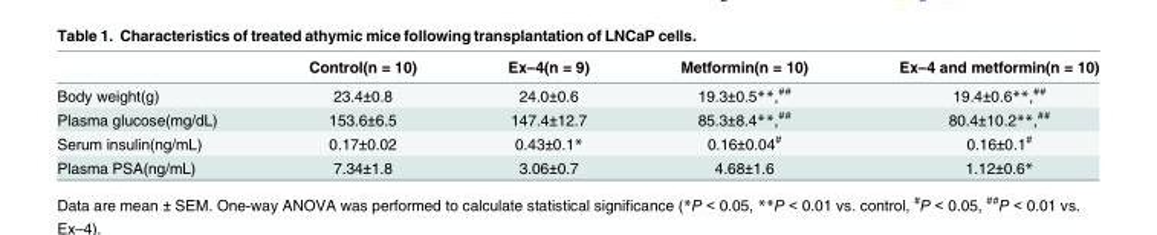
<table><thead><tr><td></td><td>Control(n = 10)</td><td>Ex–4(n = 9)</td><td>Metformin(n = 10)</td><td>Ex–4 and metformin(n = 10)</td></tr></thead><tbody><tr><td>Body weight(g)</td><td>23.4±0.8</td><td>24.0±0.6</td><td>19.3±0.5**,<sup>##</sup></td><td>19.4±0.6**,<sup>##</sup></td></tr><tr><td>Plasma glucose(mg/dL)</td><td>153.6±6.5</td><td>147.4±12.7</td><td>85.3±8.4**,<sup>##</sup></td><td>80.4±10.2**,<sup>##</sup></td></tr><tr><td>Serum insulin(ng/mL)</td><td>0.17±0.02</td><td>0.43±0.1*</td><td>0.16±0.04<sup>#</sup></td><td>0.16±0.1<sup>#</sup></td></tr><tr><td>Plasma PSA(ng/mL)</td><td>7.34±1.8</td><td>3.06±0.7</td><td>4.68±1.6</td><td>1.12±0.6*</td></tr></tbody></table>